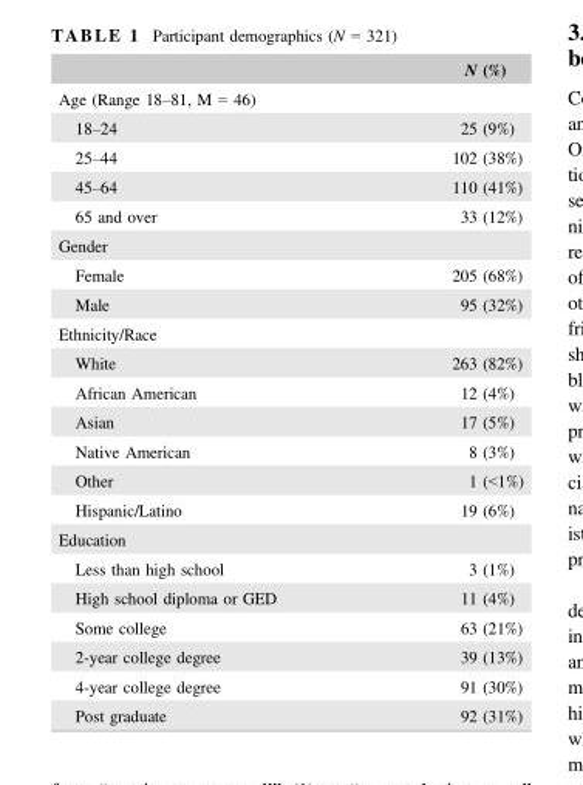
<table><thead><tr><td></td><td>N (%)</td></tr></thead><tbody><tr><td colspan="2">Age (Range 18–81, M = 46)</td></tr><tr><td>18–24</td><td>25 (9%)</td></tr><tr><td>25–44</td><td>102 (38%)</td></tr><tr><td>45–64</td><td>110 (41%)</td></tr><tr><td>65 and over</td><td>33 (12%)</td></tr><tr><td colspan="2">Gender</td></tr><tr><td>Female</td><td>205 (68%)</td></tr><tr><td>Male</td><td>95 (32%)</td></tr><tr><td colspan="2">Ethnicity/Race</td></tr><tr><td>White</td><td>263 (82%)</td></tr><tr><td>African American</td><td>12 (4%)</td></tr><tr><td>Asian</td><td>17 (5%)</td></tr><tr><td>Native American</td><td>8 (3%)</td></tr><tr><td>Other</td><td>1 (&lt;1%)</td></tr><tr><td>Hispanic/Latino</td><td>19 (6%)</td></tr><tr><td colspan="2">Education</td></tr><tr><td>Less than high school</td><td>3 (1%)</td></tr><tr><td>High school diploma or GED</td><td>11 (4%)</td></tr><tr><td>Some college</td><td>63 (21%)</td></tr><tr><td>2-year college degree</td><td>39 (13%)</td></tr><tr><td>4-year college degree</td><td>91 (30%)</td></tr><tr><td>Post graduate</td><td>92 (31%)</td></tr></tbody></table>